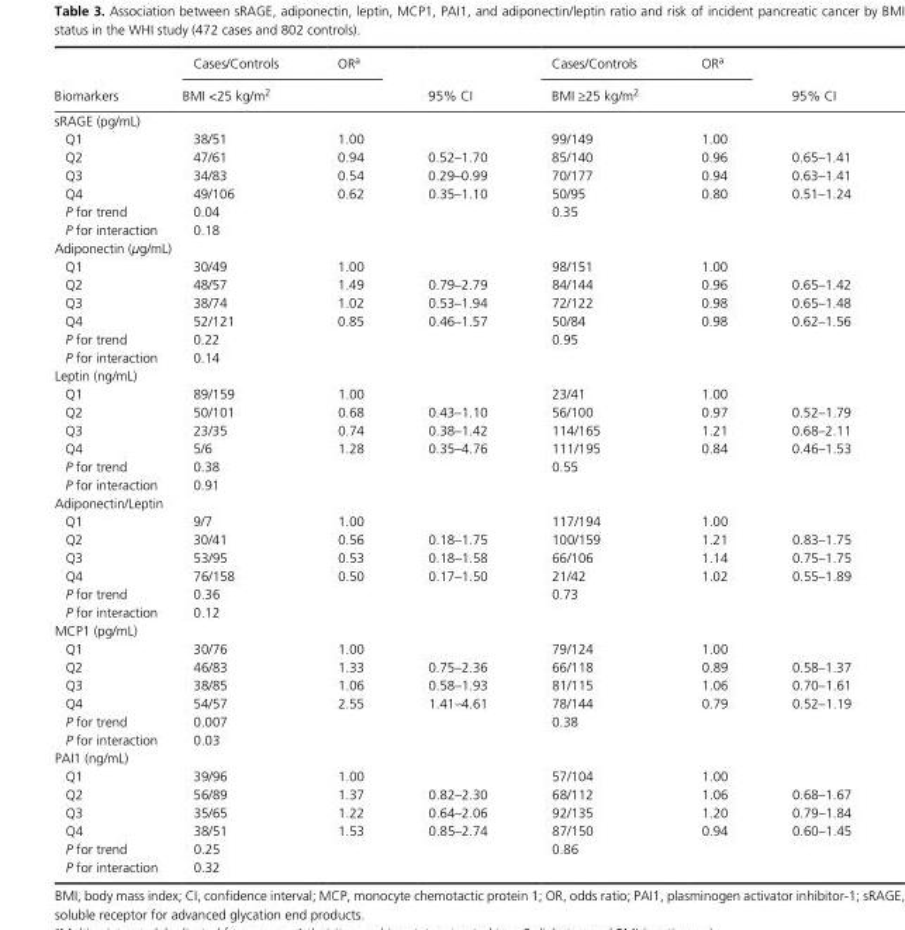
<table><thead><tr><td rowspan="2">Biomarkers</td><td>Cases/Controls</td><td>OR<sup>a</sup></td><td rowspan="2">95% CI</td><td>Cases/Controls</td><td>OR<sup>a</sup></td><td rowspan="2">95% CI</td></tr><tr><td colspan="2">BMI &lt;25 kg/m<sup>2</sup></td><td colspan="2">BMI ≥25 kg/m<sup>2</sup></td></tr></thead><tbody><tr><td colspan="7">sRAGE (pg/mL)</td></tr><tr><td>Q1</td><td>38/51</td><td>1.00</td><td></td><td>99/149</td><td>1.00</td><td></td></tr><tr><td>Q2</td><td>47/61</td><td>0.94</td><td>0.52–1.70</td><td>85/140</td><td>0.96</td><td>0.65–1.41</td></tr><tr><td>Q3</td><td>34/83</td><td>0.54</td><td>0.29–0.99</td><td>70/177</td><td>0.94</td><td>0.63–1.41</td></tr><tr><td>Q4</td><td>49/106</td><td>0.62</td><td>0.35–1.10</td><td>50/95</td><td>0.80</td><td>0.51–1.24</td></tr><tr><td>P for trend</td><td>0.04</td><td></td><td></td><td>0.35</td><td></td><td></td></tr><tr><td>P for interaction</td><td>0.18</td><td></td><td></td><td></td><td></td><td></td></tr><tr><td colspan="7">Adiponectin (μg/mL)</td></tr><tr><td>Q1</td><td>30/49</td><td>1.00</td><td></td><td>98/151</td><td>1.00</td><td></td></tr><tr><td>Q2</td><td>48/57</td><td>1.49</td><td>0.79–2.79</td><td>84/144</td><td>0.96</td><td>0.65–1.42</td></tr><tr><td>Q3</td><td>38/74</td><td>1.02</td><td>0.53–1.94</td><td>72/122</td><td>0.98</td><td>0.65–1.48</td></tr><tr><td>Q4</td><td>52/121</td><td>0.85</td><td>0.46–1.57</td><td>50/84</td><td>0.98</td><td>0.62–1.56</td></tr><tr><td>P for trend</td><td>0.22</td><td></td><td></td><td>0.95</td><td></td><td></td></tr><tr><td>P for interaction</td><td>0.14</td><td></td><td></td><td></td><td></td><td></td></tr><tr><td colspan="7">Leptin (ng/mL)</td></tr><tr><td>Q1</td><td>89/159</td><td>1.00</td><td></td><td>23/41</td><td>1.00</td><td></td></tr><tr><td>Q2</td><td>50/101</td><td>0.68</td><td>0.43–1.10</td><td>56/100</td><td>0.97</td><td>0.52–1.79</td></tr><tr><td>Q3</td><td>23/35</td><td>0.74</td><td>0.38–1.42</td><td>114/165</td><td>1.21</td><td>0.68–2.11</td></tr><tr><td>Q4</td><td>5/6</td><td>1.28</td><td>0.35–4.76</td><td>111/195</td><td>0.84</td><td>0.46–1.53</td></tr><tr><td>P for trend</td><td>0.38</td><td></td><td></td><td>0.55</td><td></td><td></td></tr><tr><td>P for interaction</td><td>0.91</td><td></td><td></td><td></td><td></td><td></td></tr><tr><td colspan="7">Adiponectin/Leptin</td></tr><tr><td>Q1</td><td>9/7</td><td>1.00</td><td></td><td>117/194</td><td>1.00</td><td></td></tr><tr><td>Q2</td><td>30/41</td><td>0.56</td><td>0.18–1.75</td><td>100/159</td><td>1.21</td><td>0.83–1.75</td></tr><tr><td>Q3</td><td>53/95</td><td>0.53</td><td>0.18–1.58</td><td>66/106</td><td>1.14</td><td>0.75–1.75</td></tr><tr><td>Q4</td><td>76/158</td><td>0.50</td><td>0.17–1.50</td><td>21/42</td><td>1.02</td><td>0.55–1.89</td></tr><tr><td>P for trend</td><td>0.36</td><td></td><td></td><td>0.73</td><td></td><td></td></tr><tr><td>P for interaction</td><td>0.12</td><td></td><td></td><td></td><td></td><td></td></tr><tr><td colspan="7">MCP1 (pg/mL)</td></tr><tr><td>Q1</td><td>30/76</td><td>1.00</td><td></td><td>79/124</td><td>1.00</td><td></td></tr><tr><td>Q2</td><td>46/83</td><td>1.33</td><td>0.75–2.36</td><td>66/118</td><td>0.89</td><td>0.58–1.37</td></tr><tr><td>Q3</td><td>38/85</td><td>1.06</td><td>0.58–1.93</td><td>81/115</td><td>1.06</td><td>0.70–1.61</td></tr><tr><td>Q4</td><td>54/57</td><td>2.55</td><td>1.41–4.61</td><td>78/144</td><td>0.79</td><td>0.52–1.19</td></tr><tr><td>P for trend</td><td>0.007</td><td></td><td></td><td>0.38</td><td></td><td></td></tr><tr><td>P for interaction</td><td>0.03</td><td></td><td></td><td></td><td></td><td></td></tr><tr><td colspan="7">PAI1 (ng/mL)</td></tr><tr><td>Q1</td><td>39/96</td><td>1.00</td><td></td><td>57/104</td><td>1.00</td><td></td></tr><tr><td>Q2</td><td>56/89</td><td>1.37</td><td>0.82–2.30</td><td>68/112</td><td>1.06</td><td>0.68–1.67</td></tr><tr><td>Q3</td><td>35/65</td><td>1.22</td><td>0.64–2.06</td><td>92/135</td><td>1.20</td><td>0.79–1.84</td></tr><tr><td>Q4</td><td>38/51</td><td>1.53</td><td>0.85–2.74</td><td>87/150</td><td>0.94</td><td>0.60–1.45</td></tr><tr><td>P for trend</td><td>0.25</td><td></td><td></td><td>0.86</td><td></td><td></td></tr><tr><td>P for interaction</td><td>0.32</td><td></td><td></td><td></td><td></td><td></td></tr></tbody></table>